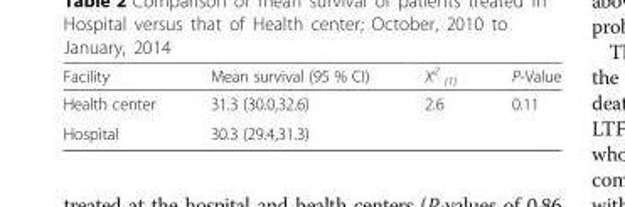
<table><thead><tr><td>Facility</td><td>Mean survival (95 % CI)</td><td>X<sup>2</sup> <sub>(1)</sub></td><td>P-Value</td></tr></thead><tbody><tr><td>Health center</td><td>31.3 (30.0,32.6)</td><td>2.6</td><td>0.11</td></tr><tr><td>Hospital</td><td>30.3 (29.4,31.3)</td><td></td><td></td></tr></tbody></table>